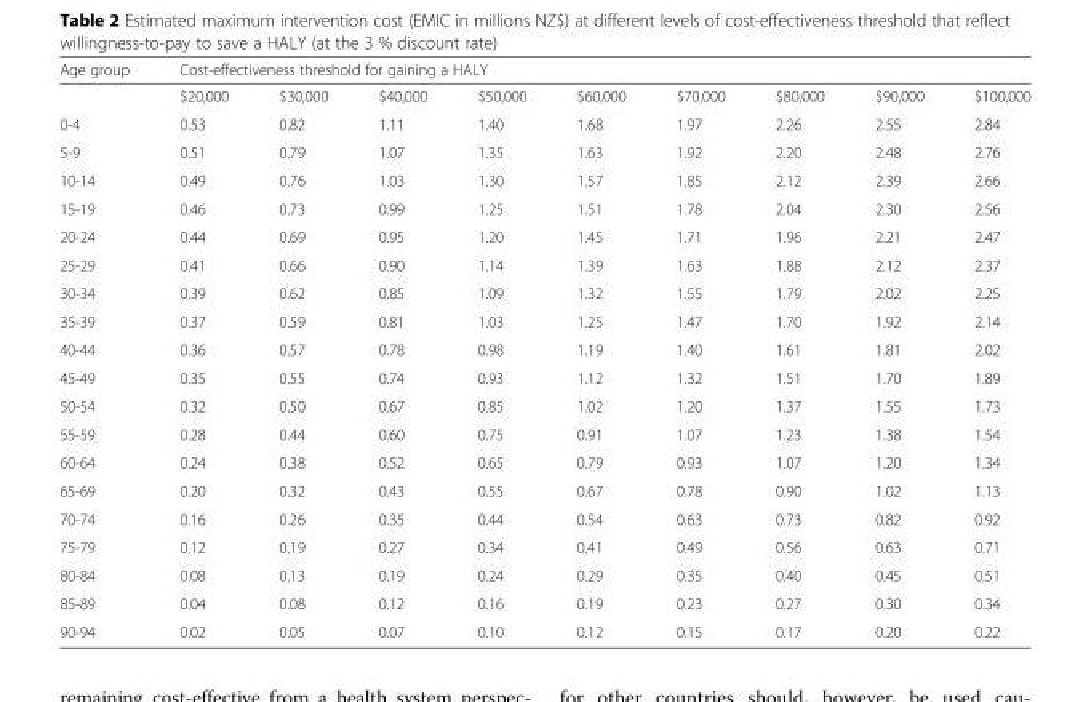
<table><thead><tr><td rowspan="2">Age group</td><td colspan="9">Cost-effectiveness threshold for gaining a HALY</td></tr><tr><td>$20,000</td><td>$30,000</td><td>$40,000</td><td>$50,000</td><td>$60,000</td><td>$70,000</td><td>$80,000</td><td>$90,000</td><td>$100,000</td></tr></thead><tbody><tr><td>0-4</td><td>0.53</td><td>0.82</td><td>1.11</td><td>1.40</td><td>1.68</td><td>1.97</td><td>2.26</td><td>2.55</td><td>2.84</td></tr><tr><td>5-9</td><td>0.51</td><td>0.79</td><td>1.07</td><td>1.35</td><td>1.63</td><td>1.92</td><td>2.20</td><td>2.48</td><td>2.76</td></tr><tr><td>10-14</td><td>0.49</td><td>0.76</td><td>1.03</td><td>1.30</td><td>1.57</td><td>1.85</td><td>2.12</td><td>2.39</td><td>2.66</td></tr><tr><td>15-19</td><td>0.46</td><td>0.73</td><td>0.99</td><td>1.25</td><td>1.51</td><td>1.78</td><td>2.04</td><td>2.30</td><td>2.56</td></tr><tr><td>20-24</td><td>0.44</td><td>0.69</td><td>0.95</td><td>1.20</td><td>1.45</td><td>1.71</td><td>1.96</td><td>2.21</td><td>2.47</td></tr><tr><td>25-29</td><td>0.41</td><td>0.66</td><td>0.90</td><td>1.14</td><td>1.39</td><td>1.63</td><td>1.88</td><td>2.12</td><td>2.37</td></tr><tr><td>30-34</td><td>0.39</td><td>0.62</td><td>0.85</td><td>1.09</td><td>1.32</td><td>1.55</td><td>1.79</td><td>2.02</td><td>2.25</td></tr><tr><td>35-39</td><td>0.37</td><td>0.59</td><td>0.81</td><td>1.03</td><td>1.25</td><td>1.47</td><td>1.70</td><td>1.92</td><td>2.14</td></tr><tr><td>40-44</td><td>0.36</td><td>0.57</td><td>0.78</td><td>0.98</td><td>1.19</td><td>1.40</td><td>1.61</td><td>1.81</td><td>2.02</td></tr><tr><td>45-49</td><td>0.35</td><td>0.55</td><td>0.74</td><td>0.93</td><td>1.12</td><td>1.32</td><td>1.51</td><td>1.70</td><td>1.89</td></tr><tr><td>50-54</td><td>0.32</td><td>0.50</td><td>0.67</td><td>0.85</td><td>1.02</td><td>1.20</td><td>1.37</td><td>1.55</td><td>1.73</td></tr><tr><td>55-59</td><td>0.28</td><td>0.44</td><td>0.60</td><td>0.75</td><td>0.91</td><td>1.07</td><td>1.23</td><td>1.38</td><td>1.54</td></tr><tr><td>60-64</td><td>0.24</td><td>0.38</td><td>0.52</td><td>0.65</td><td>0.79</td><td>0.93</td><td>1.07</td><td>1.20</td><td>1.34</td></tr><tr><td>65-69</td><td>0.20</td><td>0.32</td><td>0.43</td><td>0.55</td><td>0.67</td><td>0.78</td><td>0.90</td><td>1.02</td><td>1.13</td></tr><tr><td>70-74</td><td>0.16</td><td>0.26</td><td>0.35</td><td>0.44</td><td>0.54</td><td>0.63</td><td>0.73</td><td>0.82</td><td>0.92</td></tr><tr><td>75-79</td><td>0.12</td><td>0.19</td><td>0.27</td><td>0.34</td><td>0.41</td><td>0.49</td><td>0.56</td><td>0.63</td><td>0.71</td></tr><tr><td>80-84</td><td>0.08</td><td>0.13</td><td>0.19</td><td>0.24</td><td>0.29</td><td>0.35</td><td>0.40</td><td>0.45</td><td>0.51</td></tr><tr><td>85-89</td><td>0.04</td><td>0.08</td><td>0.12</td><td>0.16</td><td>0.19</td><td>0.23</td><td>0.27</td><td>0.30</td><td>0.34</td></tr><tr><td>90-94</td><td>0.02</td><td>0.05</td><td>0.07</td><td>0.10</td><td>0.12</td><td>0.15</td><td>0.17</td><td>0.20</td><td>0.22</td></tr></tbody></table>